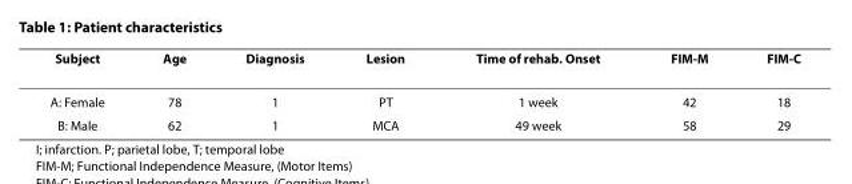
<table><thead><tr><td>Subject</td><td>Age</td><td>Diagnosis</td><td>Lesion</td><td>Time of rehab. Onset</td><td>FIM-M</td><td>FIM-C</td></tr></thead><tbody><tr><td>A: Female</td><td>78</td><td>1</td><td>PT</td><td>1 week</td><td>42</td><td>18</td></tr><tr><td>B: Male</td><td>62</td><td>1</td><td>MCA</td><td>49 week</td><td>58</td><td>29</td></tr></tbody></table>